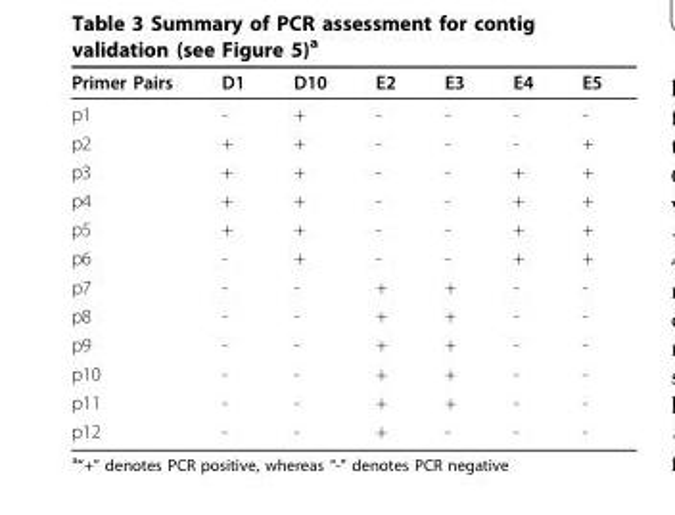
<table><thead><tr><td>Primer Pairs</td><td>D1</td><td>D10</td><td>E2</td><td>E3</td><td>E4</td><td>E5</td></tr></thead><tbody><tr><td>p1</td><td>-</td><td>+</td><td>-</td><td>-</td><td>-</td><td>-</td></tr><tr><td>p2</td><td>+</td><td>+</td><td>-</td><td>-</td><td>-</td><td>+</td></tr><tr><td>p3</td><td>+</td><td>+</td><td>-</td><td>-</td><td>+</td><td>+</td></tr><tr><td>p4</td><td>+</td><td>+</td><td>-</td><td>-</td><td>+</td><td>+</td></tr><tr><td>p5</td><td>+</td><td>+</td><td>-</td><td>-</td><td>+</td><td>+</td></tr><tr><td>p6</td><td>-</td><td>+</td><td>-</td><td>-</td><td>+</td><td>+</td></tr><tr><td>p7</td><td>-</td><td>-</td><td>+</td><td>+</td><td>-</td><td>-</td></tr><tr><td>p8</td><td>-</td><td>-</td><td>+</td><td>+</td><td>-</td><td>-</td></tr><tr><td>p9</td><td>-</td><td>-</td><td>+</td><td>+</td><td>-</td><td>-</td></tr><tr><td>p10</td><td>-</td><td>-</td><td>+</td><td>+</td><td>-</td><td>-</td></tr><tr><td>p11</td><td>-</td><td>-</td><td>+</td><td>+</td><td>-</td><td>-</td></tr><tr><td>p12</td><td>-</td><td>-</td><td>+</td><td>-</td><td>-</td><td>-</td></tr></tbody></table>